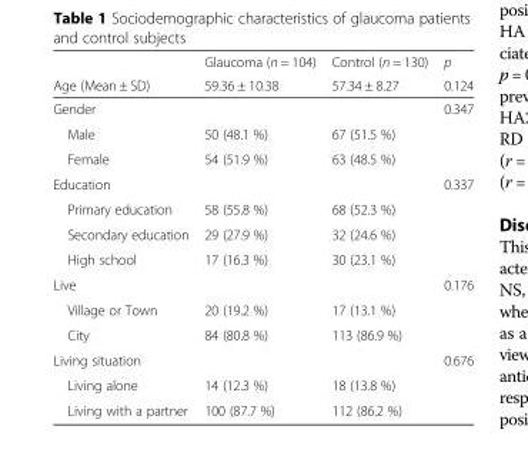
<table><thead><tr><td rowspan="2">Age (Mean ± SD)</td><td rowspan="2">Glaucoma (n = 104) 59.36 ± 10.38</td><td rowspan="2">Control (n = 130) 57.34 ± 8.27</td><td rowspan="2">p 0.124</td></tr><tr></tr></thead><tbody><tr><td>Gender</td><td></td><td></td><td>0.347</td></tr><tr><td>Male</td><td>50 (48.1 %)</td><td>67 (51.5 %)</td><td rowspan="2"></td></tr><tr><td>Female</td><td>54 (51.9 %)</td><td>63 (48.5 %)</td></tr><tr><td>Education</td><td></td><td></td><td>0.337</td></tr><tr><td>Primary education</td><td>58 (55.8 %)</td><td>68 (52.3 %)</td><td></td></tr><tr><td>Secondary education</td><td>29 (27.9 %)</td><td>32 (24.6 %)</td><td></td></tr><tr><td>High school</td><td>17 (16.3 %)</td><td>30 (23.1 %)</td><td></td></tr><tr><td>Live</td><td></td><td></td><td>0.176</td></tr><tr><td>Village or Town</td><td>20 (19.2 %)</td><td>17 (13.1 %)</td><td rowspan="2"></td></tr><tr><td>City</td><td>84 (80.8 %)</td><td>113 (86.9 %)</td></tr><tr><td>Living situation</td><td></td><td></td><td>0.676</td></tr><tr><td>Living alone</td><td>14 (12.3 %)</td><td>18 (13.8 %)</td><td rowspan="2"></td></tr><tr><td>Living with a partner</td><td>100 (87.7 %)</td><td>112 (86.2 %)</td></tr></tbody></table>